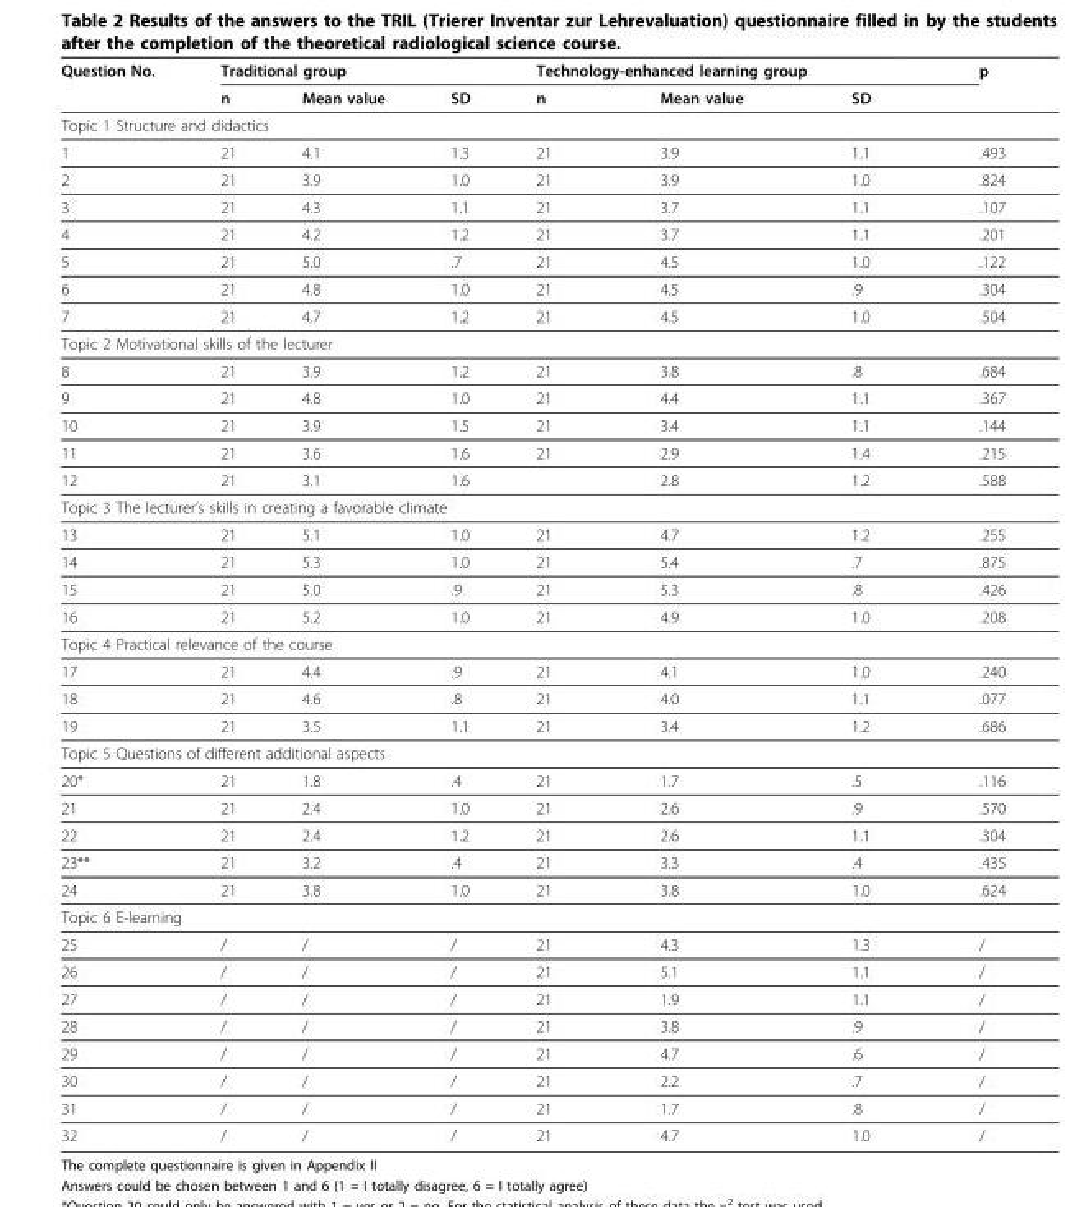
<table><thead><tr><td rowspan="2">Question No.</td><td colspan="3">Traditional group</td><td colspan="3">Technology-enhanced learning group</td><td rowspan="2">p</td></tr><tr><td>n</td><td>Mean value</td><td>SD</td><td>n</td><td>Mean value</td><td>SD</td></tr></thead><tbody><tr><td colspan="8">Topic 1 Structure and didactics</td></tr><tr><td>1</td><td>21</td><td>4.1</td><td>1.3</td><td>21</td><td>3.9</td><td>1.1</td><td>.493</td></tr><tr><td>2</td><td>21</td><td>3.9</td><td>1.0</td><td>21</td><td>3.9</td><td>1.0</td><td>.824</td></tr><tr><td>3</td><td>21</td><td>4.3</td><td>1.1</td><td>21</td><td>3.7</td><td>1.1</td><td>.107</td></tr><tr><td>4</td><td>21</td><td>4.2</td><td>1.2</td><td>21</td><td>3.7</td><td>1.1</td><td>.201</td></tr><tr><td>5</td><td>21</td><td>5.0</td><td>.7</td><td>21</td><td>4.5</td><td>1.0</td><td>.122</td></tr><tr><td>6</td><td>21</td><td>4.8</td><td>1.0</td><td>21</td><td>4.5</td><td>.9</td><td>.304</td></tr><tr><td>7</td><td>21</td><td>4.7</td><td>1.2</td><td>21</td><td>4.5</td><td>1.0</td><td>.504</td></tr><tr><td colspan="8">Topic 2 Motivational skills of the lecturer</td></tr><tr><td>8</td><td>21</td><td>3.9</td><td>1.2</td><td>21</td><td>3.8</td><td>.8</td><td>.684</td></tr><tr><td>9</td><td>21</td><td>4.8</td><td>1.0</td><td>21</td><td>4.4</td><td>1.1</td><td>.367</td></tr><tr><td>10</td><td>21</td><td>3.9</td><td>1.5</td><td>21</td><td>3.4</td><td>1.1</td><td>.144</td></tr><tr><td>11</td><td>21</td><td>3.6</td><td>1.6</td><td>21</td><td>2.9</td><td>1.4</td><td>.215</td></tr><tr><td>12</td><td>21</td><td>3.1</td><td>1.6</td><td></td><td>2.8</td><td>1.2</td><td>.588</td></tr><tr><td colspan="8">Topic 3 The lecturer’s skills in creating a favorable climate</td></tr><tr><td>13</td><td>21</td><td>5.1</td><td>1.0</td><td>21</td><td>4.7</td><td>1.2</td><td>.255</td></tr><tr><td>14</td><td>21</td><td>5.3</td><td>1.0</td><td>21</td><td>5.4</td><td>.7</td><td>.875</td></tr><tr><td>15</td><td>21</td><td>5.0</td><td>.9</td><td>21</td><td>5.3</td><td>.8</td><td>.426</td></tr><tr><td>16</td><td>21</td><td>5.2</td><td>1.0</td><td>21</td><td>4.9</td><td>1.0</td><td>.208</td></tr><tr><td colspan="8">Topic 4 Practical relevance of the course</td></tr><tr><td>17</td><td>21</td><td>4.4</td><td>.9</td><td>21</td><td>4.1</td><td>1.0</td><td>.240</td></tr><tr><td>18</td><td>21</td><td>4.6</td><td>.8</td><td>21</td><td>4.0</td><td>1.1</td><td>.077</td></tr><tr><td>19</td><td>21</td><td>3.5</td><td>1.1</td><td>21</td><td>3.4</td><td>1.2</td><td>.686</td></tr><tr><td colspan="8">Topic 5 Questions of different additional aspects</td></tr><tr><td>20*</td><td>21</td><td>1.8</td><td>.4</td><td>21</td><td>1.7</td><td>.5</td><td>.116</td></tr><tr><td>21</td><td>21</td><td>2.4</td><td>1.0</td><td>21</td><td>2.6</td><td>.9</td><td>.570</td></tr><tr><td>22</td><td>21</td><td>2.4</td><td>1.2</td><td>21</td><td>2.6</td><td>1.1</td><td>.304</td></tr><tr><td>23**</td><td>21</td><td>3.2</td><td>.4</td><td>21</td><td>3.3</td><td>.4</td><td>.435</td></tr><tr><td>24</td><td>21</td><td>3.8</td><td>1.0</td><td>21</td><td>3.8</td><td>1.0</td><td>.624</td></tr><tr><td colspan="8">Topic 6 E-learning</td></tr><tr><td>25</td><td>/</td><td>/</td><td>/</td><td>21</td><td>4.3</td><td>1.3</td><td>/</td></tr><tr><td>26</td><td>/</td><td>/</td><td>/</td><td>21</td><td>5.1</td><td>1.1</td><td>/</td></tr><tr><td>27</td><td>/</td><td>/</td><td>/</td><td>21</td><td>1.9</td><td>1.1</td><td>/</td></tr><tr><td>28</td><td>/</td><td>/</td><td>/</td><td>21</td><td>3.8</td><td>.9</td><td>/</td></tr><tr><td>29</td><td>/</td><td>/</td><td>/</td><td>21</td><td>4.7</td><td>.6</td><td>/</td></tr><tr><td>30</td><td>/</td><td>/</td><td>/</td><td>21</td><td>2.2</td><td>.7</td><td>/</td></tr><tr><td>31</td><td>/</td><td>/</td><td>/</td><td>21</td><td>1.7</td><td>.8</td><td>/</td></tr><tr><td>32</td><td>/</td><td>/</td><td>/</td><td>21</td><td>4.7</td><td>1.0</td><td>/</td></tr></tbody></table>